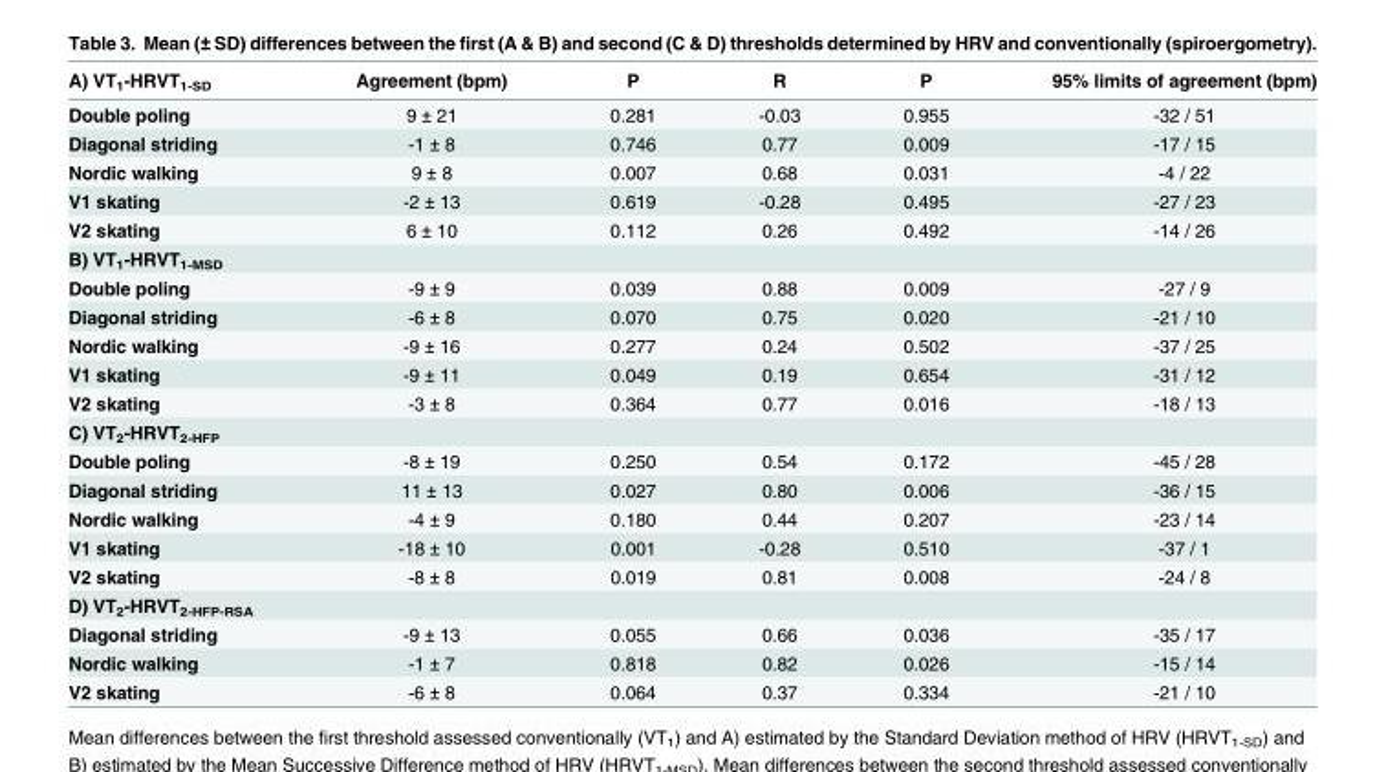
<table><thead><tr><td>A) VT<sub>1</sub>-HRVT<sub>1-SD</sub></td><td>Agreement (bpm)</td><td>P</td><td>R</td><td>P</td><td>95% limits of agreement (bpm)</td></tr></thead><tbody><tr><td>Double poling</td><td>9 ± 21</td><td>0.281</td><td>-0.03</td><td>0.955</td><td>-32 / 51</td></tr><tr><td>Diagonal striding</td><td>-1 ± 8</td><td>0.746</td><td>0.77</td><td>0.009</td><td>-17 / 15</td></tr><tr><td>Nordic walking</td><td>9 ± 8</td><td>0.007</td><td>0.68</td><td>0.031</td><td>-4 / 22</td></tr><tr><td>V1 skating</td><td>-2 ± 13</td><td>0.619</td><td>-0.28</td><td>0.495</td><td>-27 / 23</td></tr><tr><td>V2 skating</td><td>6 ± 10</td><td>0.112</td><td>0.26</td><td>0.492</td><td>-14 / 26</td></tr><tr><td colspan="6">B) VT<sub>1</sub>-HRVT<sub>1-MSD</sub></td></tr><tr><td>Double poling</td><td>-9 ± 9</td><td>0.039</td><td>0.88</td><td>0.009</td><td>-27 / 9</td></tr><tr><td>Diagonal striding</td><td>-6 ± 8</td><td>0.070</td><td>0.75</td><td>0.020</td><td>-21 / 10</td></tr><tr><td>Nordic walking</td><td>-9 ± 16</td><td>0.277</td><td>0.24</td><td>0.502</td><td>-37 / 25</td></tr><tr><td>V1 skating</td><td>-9 ± 11</td><td>0.049</td><td>0.19</td><td>0.654</td><td>-31 / 12</td></tr><tr><td>V2 skating</td><td>-3 ± 8</td><td>0.364</td><td>0.77</td><td>0.016</td><td>-18 / 13</td></tr><tr><td colspan="6">C) VT<sub>2</sub>-HRVT<sub>2-HFP</sub></td></tr><tr><td>Double poling</td><td>-8 ± 19</td><td>0.250</td><td>0.54</td><td>0.172</td><td>-45 / 28</td></tr><tr><td>Diagonal striding</td><td>11 ± 13</td><td>0.027</td><td>0.80</td><td>0.006</td><td>-36 / 15</td></tr><tr><td>Nordic walking</td><td>-4 ± 9</td><td>0.180</td><td>0.44</td><td>0.207</td><td>-23 / 14</td></tr><tr><td>V1 skating</td><td>-18 ± 10</td><td>0.001</td><td>-0.28</td><td>0.510</td><td>-37 / 1</td></tr><tr><td>V2 skating</td><td>-8 ± 8</td><td>0.019</td><td>0.81</td><td>0.008</td><td>-24 / 8</td></tr><tr><td colspan="6">D) VT<sub>2</sub>-HRVT<sub>2-HFP-RSA</sub></td></tr><tr><td>Diagonal striding</td><td>-9 ± 13</td><td>0.055</td><td>0.66</td><td>0.036</td><td>-35 / 17</td></tr><tr><td>Nordic walking</td><td>-1 ± 7</td><td>0.818</td><td>0.82</td><td>0.026</td><td>-15 / 14</td></tr><tr><td>V2 skating</td><td>-6 ± 8</td><td>0.064</td><td>0.37</td><td>0.334</td><td>-21 / 10</td></tr></tbody></table>